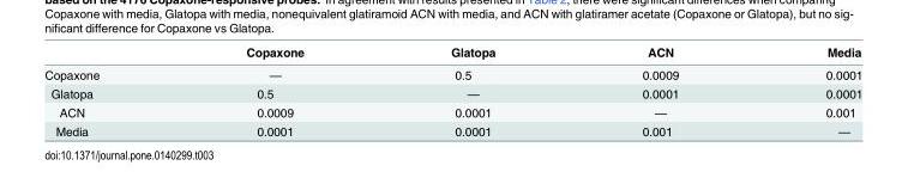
<table><thead><tr><td></td><td>Copaxone</td><td>Glatopa</td><td>ACN</td><td>Media</td></tr></thead><tbody><tr><td>Copaxone</td><td>—</td><td>0.5</td><td>0.0009</td><td>0.0001</td></tr><tr><td>Glatopa</td><td>0.5</td><td>—</td><td>0.0001</td><td>0.0001</td></tr><tr><td>ACN</td><td>0.0009</td><td>0.0001</td><td>—</td><td>0.001</td></tr><tr><td>Media</td><td>0.0001</td><td>0.0001</td><td>0.001</td><td>—</td></tr></tbody></table>